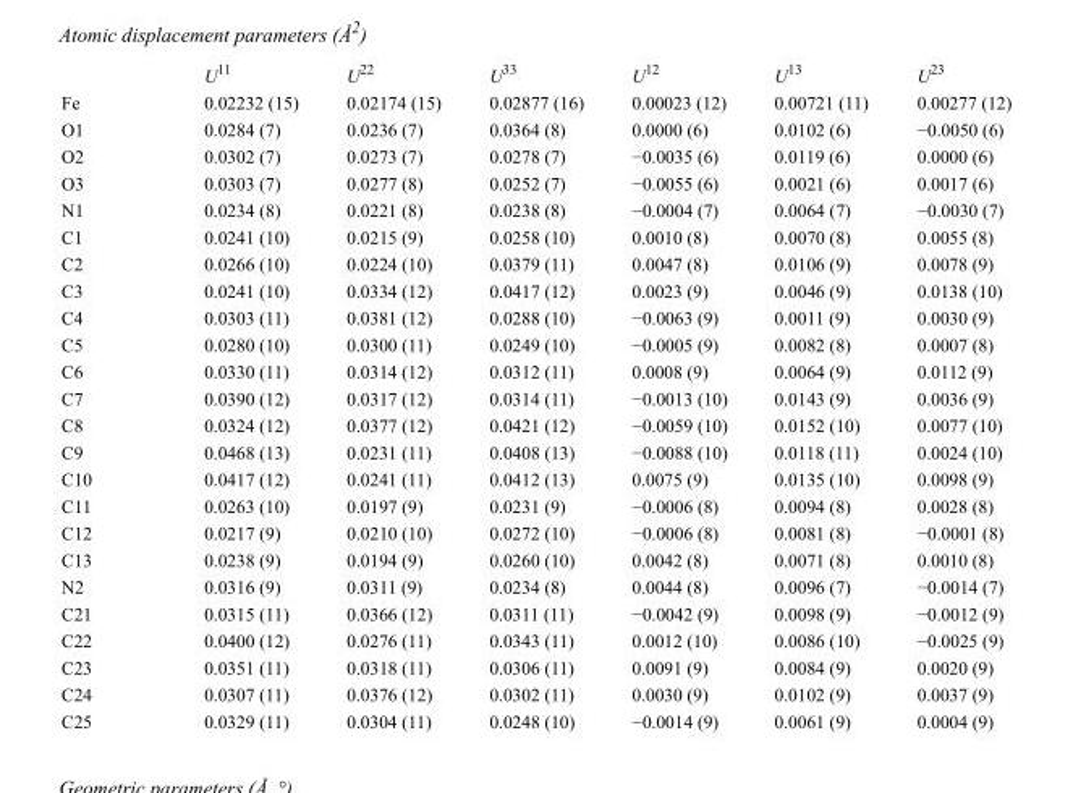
<table><thead><tr><td></td><td>U<sup>11</sup></td><td>U<sup>22</sup></td><td>U<sup>33</sup></td><td>U<sup>12</sup></td><td>U<sup>13</sup></td><td>U<sup>23</sup></td></tr></thead><tbody><tr><td>Fe</td><td>0.02232 (15)</td><td>0.02174 (15)</td><td>0.02877 (16)</td><td>0.00023 (12)</td><td>0.00721 (11)</td><td>0.00277 (12)</td></tr><tr><td>O1</td><td>0.0284 (7)</td><td>0.0236 (7)</td><td>0.0364 (8)</td><td>0.0000 (6)</td><td>0.0102 (6)</td><td>−0.0050 (6)</td></tr><tr><td>O2</td><td>0.0302 (7)</td><td>0.0273 (7)</td><td>0.0278 (7)</td><td>−0.0035 (6)</td><td>0.0119 (6)</td><td>0.0000 (6)</td></tr><tr><td>O3</td><td>0.0303 (7)</td><td>0.0277 (8)</td><td>0.0252 (7)</td><td>−0.0055 (6)</td><td>0.0021 (6)</td><td>0.0017 (6)</td></tr><tr><td>N1</td><td>0.0234 (8)</td><td>0.0221 (8)</td><td>0.0238 (8)</td><td>−0.0004 (7)</td><td>0.0064 (7)</td><td>−0.0030 (7)</td></tr><tr><td>C1</td><td>0.0241 (10)</td><td>0.0215 (9)</td><td>0.0258 (10)</td><td>0.0010 (8)</td><td>0.0070 (8)</td><td>0.0055 (8)</td></tr><tr><td>C2</td><td>0.0266 (10)</td><td>0.0224 (10)</td><td>0.0379 (11)</td><td>0.0047 (8)</td><td>0.0106 (9)</td><td>0.0078 (9)</td></tr><tr><td>C3</td><td>0.0241 (10)</td><td>0.0334 (12)</td><td>0.0417 (12)</td><td>0.0023 (9)</td><td>0.0046 (9)</td><td>0.0138 (10)</td></tr><tr><td>C4</td><td>0.0303 (11)</td><td>0.0381 (12)</td><td>0.0288 (10)</td><td>−0.0063 (9)</td><td>0.0011 (9)</td><td>0.0030 (9)</td></tr><tr><td>C5</td><td>0.0280 (10)</td><td>0.0300 (11)</td><td>0.0249 (10)</td><td>−0.0005 (9)</td><td>0.0082 (8)</td><td>0.0007 (8)</td></tr><tr><td>C6</td><td>0.0330 (11)</td><td>0.0314 (12)</td><td>0.0312 (11)</td><td>0.0008 (9)</td><td>0.0064 (9)</td><td>0.0112 (9)</td></tr><tr><td>C7</td><td>0.0390 (12)</td><td>0.0317 (12)</td><td>0.0314 (11)</td><td>−0.0013 (10)</td><td>0.0143 (9)</td><td>0.0036 (9)</td></tr><tr><td>C8</td><td>0.0324 (12)</td><td>0.0377 (12)</td><td>0.0421 (12)</td><td>−0.0059 (10)</td><td>0.0152 (10)</td><td>0.0077 (10)</td></tr><tr><td>C9</td><td>0.0468 (13)</td><td>0.0231 (11)</td><td>0.0408 (13)</td><td>−0.0088 (10)</td><td>0.0118 (11)</td><td>0.0024 (10)</td></tr><tr><td>C10</td><td>0.0417 (12)</td><td>0.0241 (11)</td><td>0.0412 (13)</td><td>0.0075 (9)</td><td>0.0135 (10)</td><td>0.0098 (9)</td></tr><tr><td>C11</td><td>0.0263 (10)</td><td>0.0197 (9)</td><td>0.0231 (9)</td><td>−0.0006 (8)</td><td>0.0094 (8)</td><td>0.0028 (8)</td></tr><tr><td>C12</td><td>0.0217 (9)</td><td>0.0210 (10)</td><td>0.0272 (10)</td><td>−0.0006 (8)</td><td>0.0081 (8)</td><td>−0.0001 (8)</td></tr><tr><td>C13</td><td>0.0238 (9)</td><td>0.0194 (9)</td><td>0.0260 (10)</td><td>0.0042 (8)</td><td>0.0071 (8)</td><td>0.0010 (8)</td></tr><tr><td>N2</td><td>0.0316 (9)</td><td>0.0311 (9)</td><td>0.0234 (8)</td><td>0.0044 (8)</td><td>0.0096 (7)</td><td>−0.0014 (7)</td></tr><tr><td>C21</td><td>0.0315 (11)</td><td>0.0366 (12)</td><td>0.0311 (11)</td><td>−0.0042 (9)</td><td>0.0098 (9)</td><td>−0.0012 (9)</td></tr><tr><td>C22</td><td>0.0400 (12)</td><td>0.0276 (11)</td><td>0.0343 (11)</td><td>0.0012 (10)</td><td>0.0086 (10)</td><td>−0.0025 (9)</td></tr><tr><td>C23</td><td>0.0351 (11)</td><td>0.0318 (11)</td><td>0.0306 (11)</td><td>0.0091 (9)</td><td>0.0084 (9)</td><td>0.0020 (9)</td></tr><tr><td>C24</td><td>0.0307 (11)</td><td>0.0376 (12)</td><td>0.0302 (11)</td><td>0.0030 (9)</td><td>0.0102 (9)</td><td>0.0037 (9)</td></tr><tr><td>C25</td><td>0.0329 (11)</td><td>0.0304 (11)</td><td>0.0248 (10)</td><td>−0.0014 (9)</td><td>0.0061 (9)</td><td>0.0004 (9)</td></tr></tbody></table>